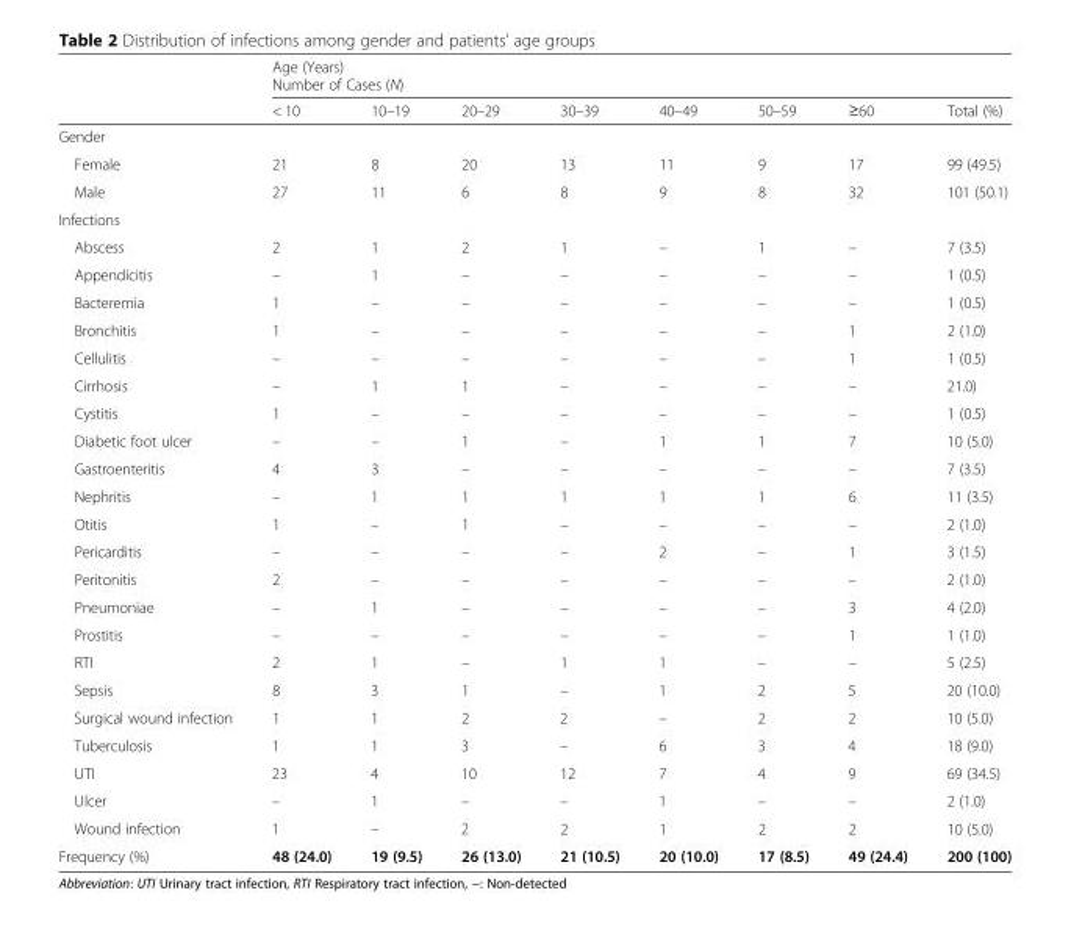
<table><thead><tr><td rowspan="2"></td><td colspan="8">Age (Years) Number of Cases (N)</td></tr><tr><td>&lt; 10</td><td>10–19</td><td>20–29</td><td>30–39</td><td>40–49</td><td>50–59</td><td>≥60</td><td>Total (%)</td></tr></thead><tbody><tr><td colspan="9">Gender</td></tr><tr><td>Female</td><td>21</td><td>8</td><td>20</td><td>13</td><td>11</td><td>9</td><td>17</td><td>99 (49.5)</td></tr><tr><td>Male</td><td>27</td><td>11</td><td>6</td><td>8</td><td>9</td><td>8</td><td>32</td><td>101 (50.1)</td></tr><tr><td colspan="9">Infections</td></tr><tr><td>Abscess</td><td>2</td><td>1</td><td>2</td><td>1</td><td>–</td><td>1</td><td>–</td><td>7 (3.5)</td></tr><tr><td>Appendicitis</td><td>–</td><td>1</td><td>–</td><td>–</td><td>–</td><td>–</td><td>–</td><td>1 (0.5)</td></tr><tr><td>Bacteremia</td><td>1</td><td>–</td><td>–</td><td>–</td><td>–</td><td>–</td><td>–</td><td>1 (0.5)</td></tr><tr><td>Bronchitis</td><td>1</td><td>–</td><td>–</td><td>–</td><td>–</td><td>–</td><td>1</td><td>2 (1.0)</td></tr><tr><td>Cellulitis</td><td>–</td><td>–</td><td>–</td><td>–</td><td>–</td><td>–</td><td>1</td><td>1 (0.5)</td></tr><tr><td>Cirrhosis</td><td>–</td><td>1</td><td>1</td><td>–</td><td>–</td><td>–</td><td>–</td><td>21.0)</td></tr><tr><td>Cystitis</td><td>1</td><td>–</td><td>–</td><td>–</td><td>–</td><td>–</td><td>–</td><td>1 (0.5)</td></tr><tr><td>Diabetic foot ulcer</td><td>–</td><td>–</td><td>1</td><td>–</td><td>1</td><td>1</td><td>7</td><td>10 (5.0)</td></tr><tr><td>Gastroenteritis</td><td>4</td><td>3</td><td>–</td><td>–</td><td>–</td><td>–</td><td>–</td><td>7 (3.5)</td></tr><tr><td>Nephritis</td><td>–</td><td>1</td><td>1</td><td>1</td><td>1</td><td>1</td><td>6</td><td>11 (3.5)</td></tr><tr><td>Otitis</td><td>1</td><td>–</td><td>1</td><td>–</td><td>–</td><td>–</td><td>–</td><td>2 (1.0)</td></tr><tr><td>Pericarditis</td><td>–</td><td>–</td><td>–</td><td>–</td><td>2</td><td>–</td><td>1</td><td>3 (1.5)</td></tr><tr><td>Peritonitis</td><td>2</td><td>–</td><td>–</td><td>–</td><td>–</td><td>–</td><td>–</td><td>2 (1.0)</td></tr><tr><td>Pneumoniae</td><td>–</td><td>1</td><td>–</td><td>–</td><td>–</td><td>–</td><td>3</td><td>4 (2.0)</td></tr><tr><td>Prostitis</td><td>–</td><td>–</td><td>–</td><td>–</td><td>–</td><td>–</td><td>1</td><td>1 (1.0)</td></tr><tr><td>RTI</td><td>2</td><td>1</td><td>–</td><td>1</td><td>1</td><td>–</td><td>–</td><td>5 (2.5)</td></tr><tr><td>Sepsis</td><td>8</td><td>3</td><td>1</td><td>–</td><td>1</td><td>2</td><td>5</td><td>20 (10.0)</td></tr><tr><td>Surgical wound infection</td><td>1</td><td>1</td><td>2</td><td>2</td><td>–</td><td>2</td><td>2</td><td>10 (5.0)</td></tr><tr><td>Tuberculosis</td><td>1</td><td>1</td><td>3</td><td>–</td><td>6</td><td>3</td><td>4</td><td>18 (9.0)</td></tr><tr><td>UTI</td><td>23</td><td>4</td><td>10</td><td>12</td><td>7</td><td>4</td><td>9</td><td>69 (34.5)</td></tr><tr><td>Ulcer</td><td>–</td><td>1</td><td>–</td><td>–</td><td>1</td><td>–</td><td>–</td><td>2 (1.0)</td></tr><tr><td>Wound infection</td><td>1</td><td>–</td><td>2</td><td>2</td><td>1</td><td>2</td><td>2</td><td>10 (5.0)</td></tr><tr><td>Frequency (%)</td><td>48 (24.0)</td><td>19 (9.5)</td><td>26 (13.0)</td><td>21 (10.5)</td><td>20 (10.0)</td><td>17 (8.5)</td><td>49 (24.4)</td><td>200 (100)</td></tr></tbody></table>